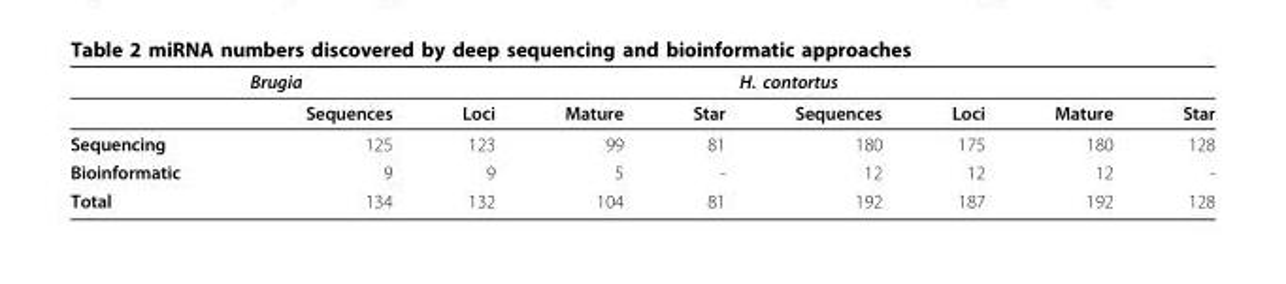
<table><thead><tr><td rowspan="2"></td><td colspan="4">Brugia</td><td colspan="4">H. contortus</td></tr><tr><td>Sequences</td><td>Loci</td><td>Mature</td><td>Star</td><td>Sequences</td><td>Loci</td><td>Mature</td><td>Star</td></tr></thead><tbody><tr><td>Sequencing</td><td>125</td><td>123</td><td>99</td><td>81</td><td>180</td><td>175</td><td>180</td><td>128</td></tr><tr><td>Bioinformatic</td><td>9</td><td>9</td><td>5</td><td>-</td><td>12</td><td>12</td><td>12</td><td>-</td></tr><tr><td>Total</td><td>134</td><td>132</td><td>104</td><td>81</td><td>192</td><td>187</td><td>192</td><td>128</td></tr></tbody></table>